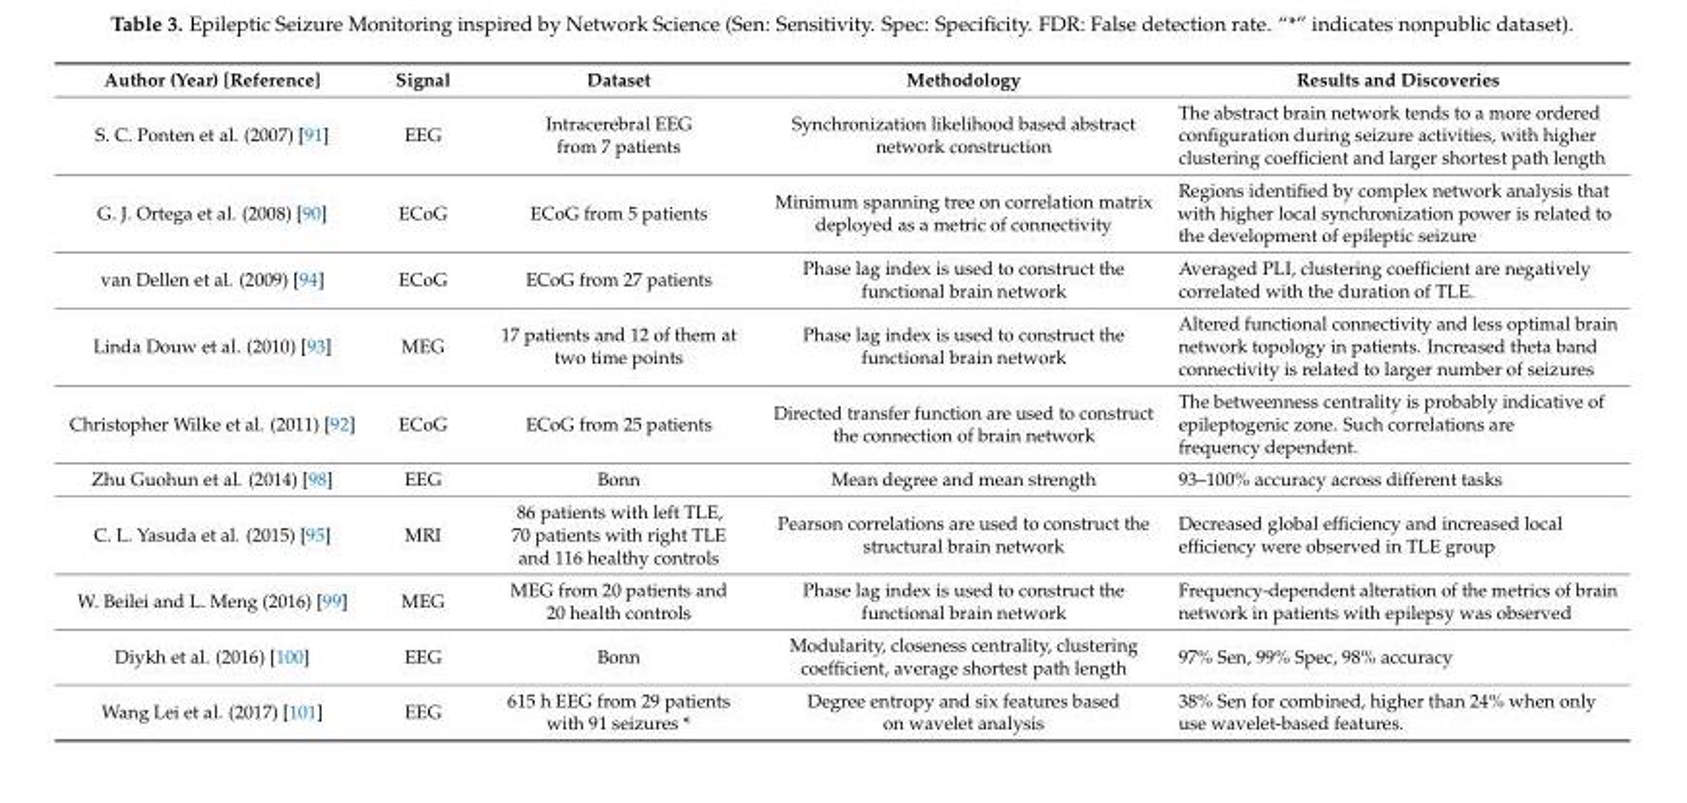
<table><thead><tr><td>Author (Year) [Reference]</td><td>Signal</td><td>Dataset</td><td>Methodology</td><td>Results and Discoveries</td></tr></thead><tbody><tr><td>S. C. Ponten et al. (2007) [91]</td><td>EEG</td><td>Intracerebral EEG from 7 patients</td><td>Synchronization likelihood based abstract network construction</td><td>The abstract brain network tends to a more ordered configuration during seizure activities, with higher clustering coefficient and larger shortest path length</td></tr><tr><td>G. J. Ortega et al. (2008) [90]</td><td>ECoG</td><td>ECoG from 5 patients</td><td>Minimum spanning tree on correlation matrix deployed as a metric of connectivity</td><td>Regions identified by complex network analysis that with higher local synchronization power is related to the development of epileptic seizure</td></tr><tr><td>van Dellen et al. (2009) [94]</td><td>ECoG</td><td>ECoG from 27 patients</td><td>Phase lag index is used to construct the functional brain network</td><td>Averaged PLI, clustering coefficient are negatively correlated with the duration of TLE.</td></tr><tr><td>Linda Douw et al. (2010) [93]</td><td>MEG</td><td>17 patients and 12 of them at two time points</td><td>Phase lag index is used to construct the functional brain network</td><td>Altered functional connectivity and less optimal brain network topology in patients. Increased theta band connectivity is related to larger number of seizures</td></tr><tr><td>Christopher Wilke et al. (2011) [92]</td><td>ECoG</td><td>ECoG from 25 patients</td><td>Directed transfer function are used to construct the connection of brain network</td><td>The betweenness centrality is probably indicative of epileptogenic zone. Such correlations are frequency dependent.</td></tr><tr><td>Zhu Guohun et al. (2014) [98]</td><td>EEG</td><td>Bonn</td><td>Mean degree and mean strength</td><td>93–100% accuracy across different tasks</td></tr><tr><td>C. L. Yasuda et al. (2015) [95]</td><td>MRI</td><td>86 patients with left TLE, 70 patients with right TLE and 116 healthy controls</td><td>Pearson correlations are used to construct the structural brain network</td><td>Decreased global efficiency and increased local efficiency were observed in TLE group</td></tr><tr><td>W. Beilei and L. Meng (2016) [99]</td><td>MEG</td><td>MEG from 20 patients and 20 health controls</td><td>Phase lag index is used to construct the functional brain network</td><td>Frequency-dependent alteration of the metrics of brain network in patients with epilepsy was observed</td></tr><tr><td>Diykh et al. (2016) [100]</td><td>EEG</td><td>Bonn</td><td>Modularity, closeness centrality, clustering coefficient, average shortest path length</td><td>97% Sen, 99% Spec, 98% accuracy</td></tr><tr><td>Wang Lei et al. (2017) [101]</td><td>EEG</td><td>615 h EEG from 29 patients with 91 seizures *</td><td>Degree entropy and six features based on wavelet analysis</td><td>38% Sen for combined, higher than 24% when only use wavelet-based features.</td></tr></tbody></table>